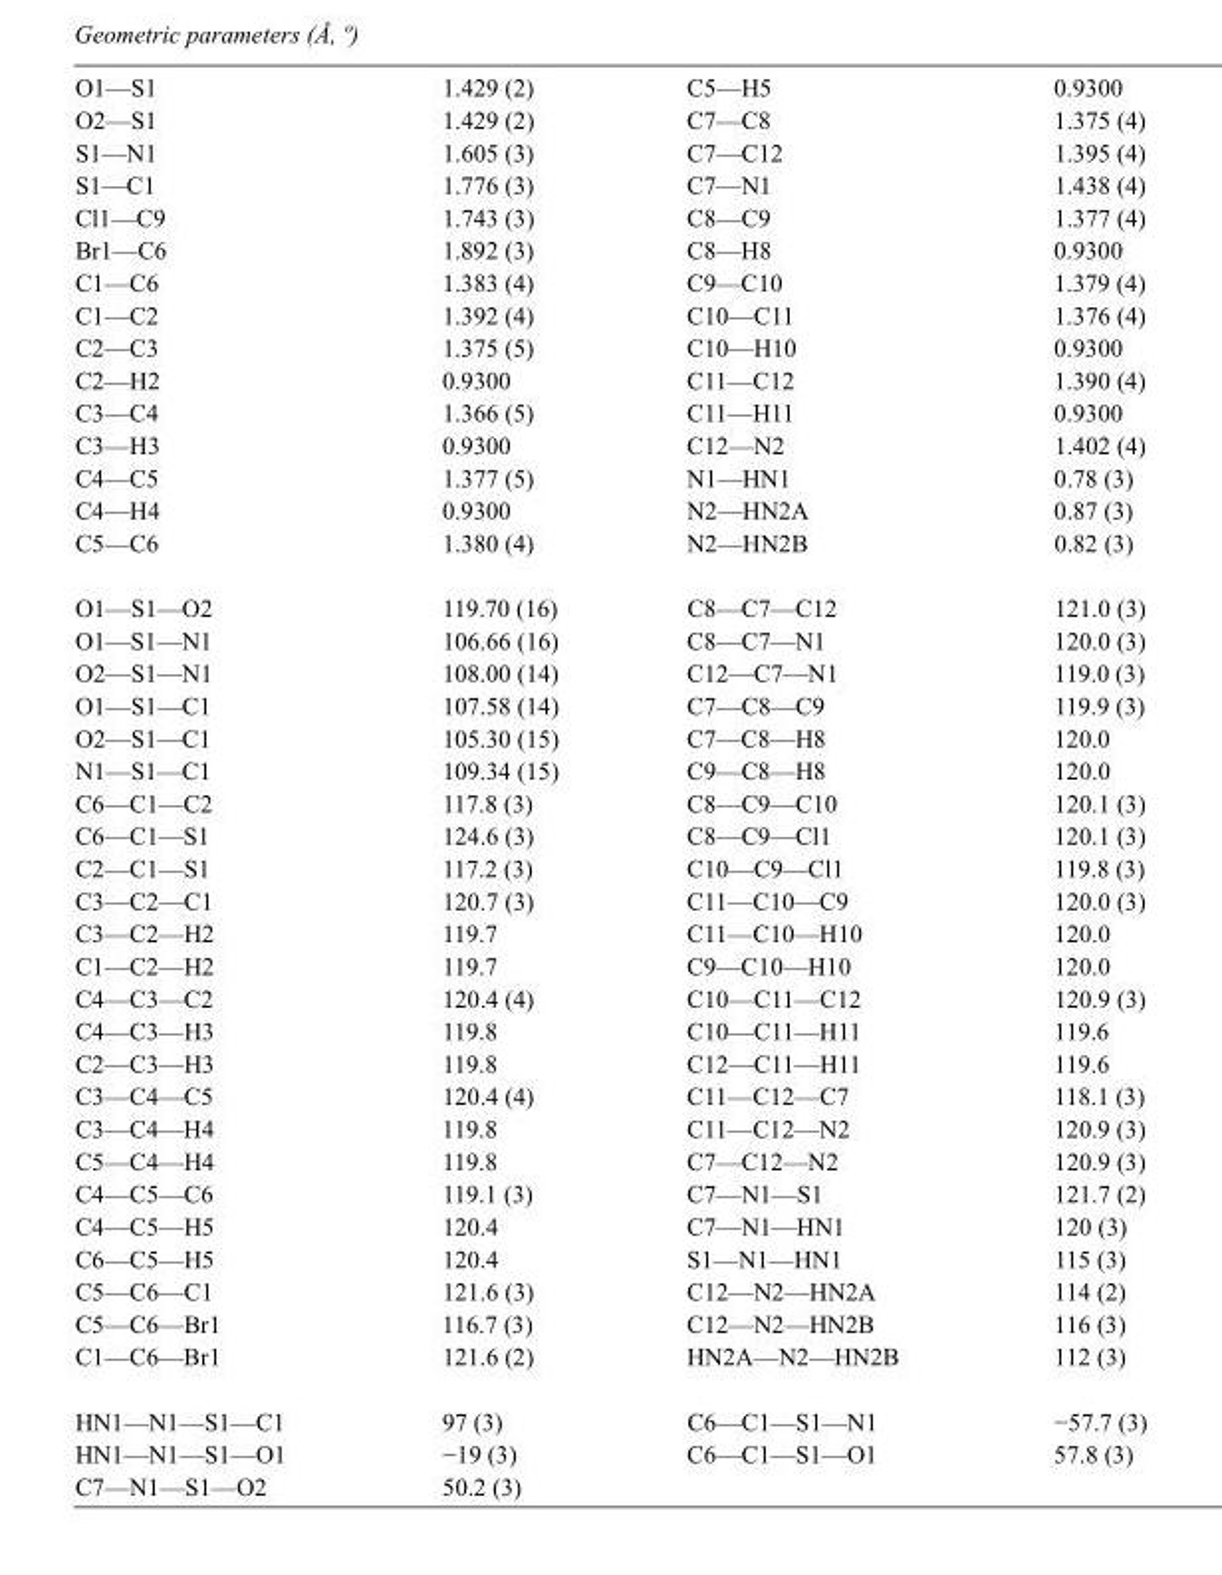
<table><tbody><tr><td>O1—S1</td><td>1.429 (2)</td><td>C5—H5</td><td>0.9300</td></tr><tr><td>O2—S1</td><td>1.429 (2)</td><td>C7—C8</td><td>1.375 (4)</td></tr><tr><td>S1—N1</td><td>1.605 (3)</td><td>C7—C12</td><td>1.395 (4)</td></tr><tr><td>S1—C1</td><td>1.776 (3)</td><td>C7—N1</td><td>1.438 (4)</td></tr><tr><td>Cl1—C9</td><td>1.743 (3)</td><td>C8—C9</td><td>1.377 (4)</td></tr><tr><td>Br1—C6</td><td>1.892 (3)</td><td>C8—H8</td><td>0.9300</td></tr><tr><td>C1—C6</td><td>1.383 (4)</td><td>C9—C10</td><td>1.379 (4)</td></tr><tr><td>C1—C2</td><td>1.392 (4)</td><td>C10—C11</td><td>1.376 (4)</td></tr><tr><td>C2—C3</td><td>1.375 (5)</td><td>C10—H10</td><td>0.9300</td></tr><tr><td>C2—H2</td><td>0.9300</td><td>C11—C12</td><td>1.390 (4)</td></tr><tr><td>C3—C4</td><td>1.366 (5)</td><td>C11—H11</td><td>0.9300</td></tr><tr><td>C3—H3</td><td>0.9300</td><td>C12—N2</td><td>1.402 (4)</td></tr><tr><td>C4—C5</td><td>1.377 (5)</td><td>N1—HN1</td><td>0.78 (3)</td></tr><tr><td>C4—H4</td><td>0.9300</td><td>N2—HN2A</td><td>0.87 (3)</td></tr><tr><td>C5—C6</td><td>1.380 (4)</td><td>N2—HN2B</td><td>0.82 (3)</td></tr><tr><td>O1—S1—O2</td><td>119.70 (16)</td><td>C8—C7—C12</td><td>121.0 (3)</td></tr><tr><td>O1—S1—N1</td><td>106.66 (16)</td><td>C8—C7—N1</td><td>120.0 (3)</td></tr><tr><td>O2—S1—N1</td><td>108.00 (14)</td><td>C12—C7—N1</td><td>119.0 (3)</td></tr><tr><td>O1—S1—C1</td><td>107.58 (14)</td><td>C7—C8—C9</td><td>119.9 (3)</td></tr><tr><td>O2—S1—C1</td><td>105.30 (15)</td><td>C7—C8—H8</td><td>120.0</td></tr><tr><td>N1—S1—C1</td><td>109.34 (15)</td><td>C9—C8—H8</td><td>120.0</td></tr><tr><td>C6—C1—C2</td><td>117.8 (3)</td><td>C8—C9—C10</td><td>120.1 (3)</td></tr><tr><td>C6—C1—S1</td><td>124.6 (3)</td><td>C8—C9—Cl1</td><td>120.1 (3)</td></tr><tr><td>C2—C1—S1</td><td>117.2 (3)</td><td>C10—C9—Cl1</td><td>119.8 (3)</td></tr><tr><td>C3—C2—C1</td><td>120.7 (3)</td><td>C11—C10—C9</td><td>120.0 (3)</td></tr><tr><td>C3—C2—H2</td><td>119.7</td><td>C11—C10—H10</td><td>120.0</td></tr><tr><td>C1—C2—H2</td><td>119.7</td><td>C9—C10—H10</td><td>120.0</td></tr><tr><td>C4—C3—C2</td><td>120.4 (4)</td><td>C10—C11—C12</td><td>120.9 (3)</td></tr><tr><td>C4—C3—H3</td><td>119.8</td><td>C10—C11—H11</td><td>119.6</td></tr><tr><td>C2—C3—H3</td><td>119.8</td><td>C12—C11—H11</td><td>119.6</td></tr><tr><td>C3—C4—C5</td><td>120.4 (4)</td><td>C11—C12—C7</td><td>118.1 (3)</td></tr><tr><td>C3—C4—H4</td><td>119.8</td><td>C11—C12—N2</td><td>120.9 (3)</td></tr><tr><td>C5—C4—H4</td><td>119.8</td><td>C7—C12—N2</td><td>120.9 (3)</td></tr><tr><td>C4—C5—C6</td><td>119.1 (3)</td><td>C7—N1—S1</td><td>121.7 (2)</td></tr><tr><td>C4—C5—H5</td><td>120.4</td><td>C7—N1—HN1</td><td>120 (3)</td></tr><tr><td>C6—C5—H5</td><td>120.4</td><td>S1—N1—HN1</td><td>115 (3)</td></tr><tr><td>C5—C6—C1</td><td>121.6 (3)</td><td>C12—N2—HN2A</td><td>114 (2)</td></tr><tr><td>C5—C6—Br1</td><td>116.7 (3)</td><td>C12—N2—HN2B</td><td>116 (3)</td></tr><tr><td>C1—C6—Br1</td><td>121.6 (2)</td><td>HN2A—N2—HN2B</td><td>112 (3)</td></tr><tr><td>HN1—N1—S1—C1</td><td>97 (3)</td><td>C6—C1—S1—N1</td><td>−57.7 (3)</td></tr><tr><td>HN1—N1—S1—O1</td><td>−19 (3)</td><td>C6—C1—S1—O1</td><td>57.8 (3)</td></tr><tr><td>C7—N1—S1—O2</td><td>50.2 (3)</td><td></td><td></td></tr></tbody></table>